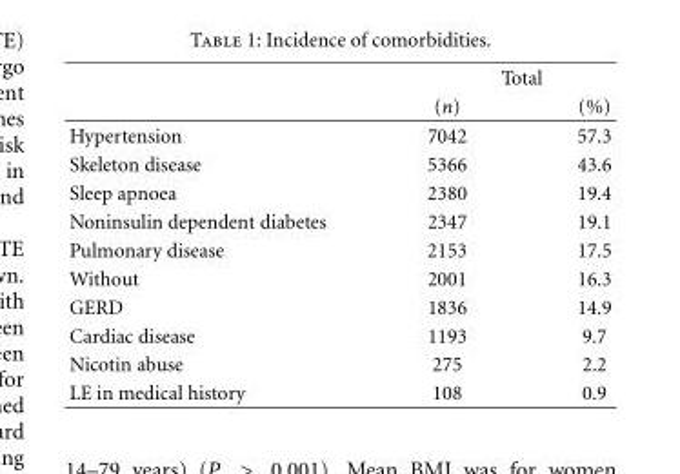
<table><thead><tr><td rowspan="2"></td><td colspan="2">Total</td></tr><tr><td>(n)</td><td>(%)</td></tr></thead><tbody><tr><td>Hypertension</td><td>7042</td><td>57.3</td></tr><tr><td>Skeleton disease</td><td>5366</td><td>43.6</td></tr><tr><td>Sleep apnoea</td><td>2380</td><td>19.4</td></tr><tr><td>Noninsulin dependent diabetes</td><td>2347</td><td>19.1</td></tr><tr><td>Pulmonary disease</td><td>2153</td><td>17.5</td></tr><tr><td>Without</td><td>2001</td><td>16.3</td></tr><tr><td>GERD</td><td>1836</td><td>14.9</td></tr><tr><td>Cardiac disease</td><td>1193</td><td>9.7</td></tr><tr><td>Nicotin abuse</td><td>275</td><td>2.2</td></tr><tr><td>LE in medical history</td><td>108</td><td>0.9</td></tr></tbody></table>